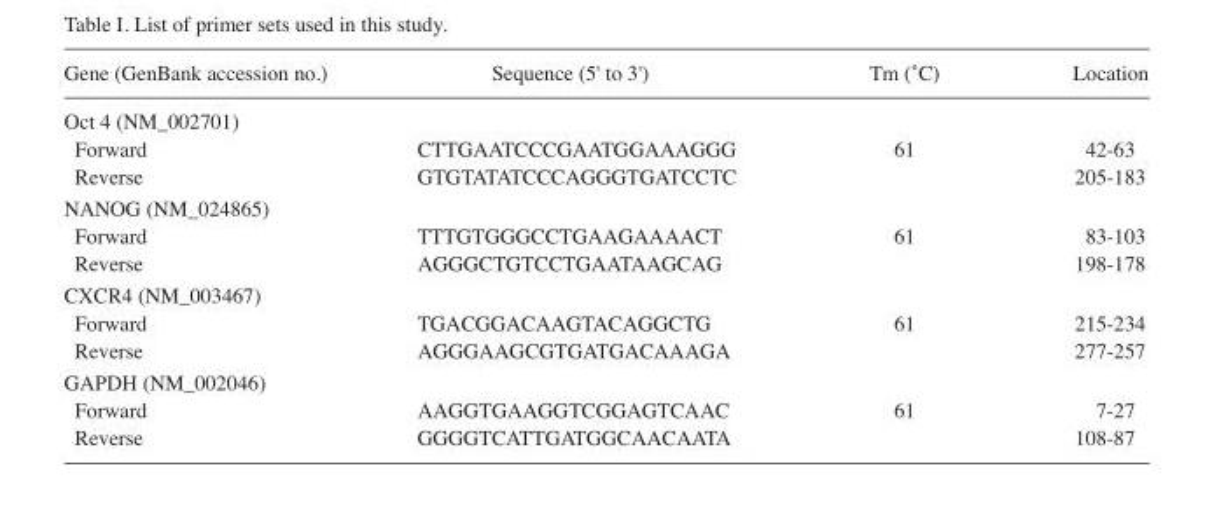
<table><thead><tr><td>Gene (GenBank accession no.)</td><td>Sequence (5&#x27; to 3&#x27;)</td><td>Tm (˚C)</td><td>Location</td></tr></thead><tbody><tr><td colspan="4">Oct 4 (NM_002701)</td></tr><tr><td>Forward</td><td>CTTGAATCCCGAATGGAAAGGG</td><td>61</td><td>42-63</td></tr><tr><td>Reverse</td><td>GTGTATATCCCAGGGTGATCCTC</td><td></td><td>205-183</td></tr><tr><td colspan="4">NANOG (NM_024865)</td></tr><tr><td>Forward</td><td>TTTGTGGGCCTGAAGAAAACT</td><td>61</td><td>83-103</td></tr><tr><td>Reverse</td><td>AGGGCTGTCCTGAATAAGCAG</td><td></td><td>198-178</td></tr><tr><td colspan="4">CXCR4 (NM_003467)</td></tr><tr><td>Forward</td><td>TGACGGACAAGTACAGGCTG</td><td>61</td><td>215-234</td></tr><tr><td>Reverse</td><td>AGGGAAGCGTGATGACAAAGA</td><td></td><td>277-257</td></tr><tr><td colspan="4">GAPDH (NM_002046)</td></tr><tr><td>Forward</td><td>AAGGTGAAGGTCGGAGTCAAC</td><td>61</td><td>7-27</td></tr><tr><td>Reverse</td><td>GGGGTCATTGATGGCAACAATA</td><td></td><td>108-87</td></tr></tbody></table>